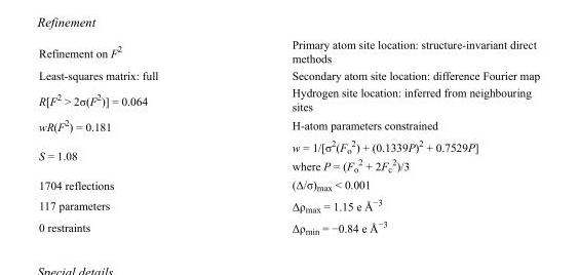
<table><tbody><tr><td>Refinement on F<sup>2</sup></td><td>Primary atom site location: structure-invariant direct methods</td></tr><tr><td>Least-squares matrix: full</td><td>Secondary atom site location: difference Fourier map</td></tr><tr><td>R[F<sup>2</sup> &gt; 2σ(F<sup>2</sup>)] = 0.064</td><td>Hydrogen site location: inferred from neighbouring sites</td></tr><tr><td>wR(F<sup>2</sup>) = 0.181</td><td>H-atom parameters constrained</td></tr><tr><td>S = 1.08</td><td>w = 1/[σ<sup>2</sup>(F<sub>o</sub> <sup>2</sup>) + (0.1339P)<sup>2</sup> + 0.7529P] where P = (F<sub>o</sub> <sup>2</sup> + 2F<sub>c</sub> <sup>2</sup>)/3</td></tr><tr><td>1704 reflections</td><td>(Δ/σ)<sub>max</sub> &lt; 0.001</td></tr><tr><td>117 parameters</td><td>Δρ<sub>max</sub> = 1.15 e Å<sup>−3</sup></td></tr><tr><td>0 restraints</td><td>Δρ<sub>min</sub> = −0.84 e Å<sup>−3</sup></td></tr></tbody></table>